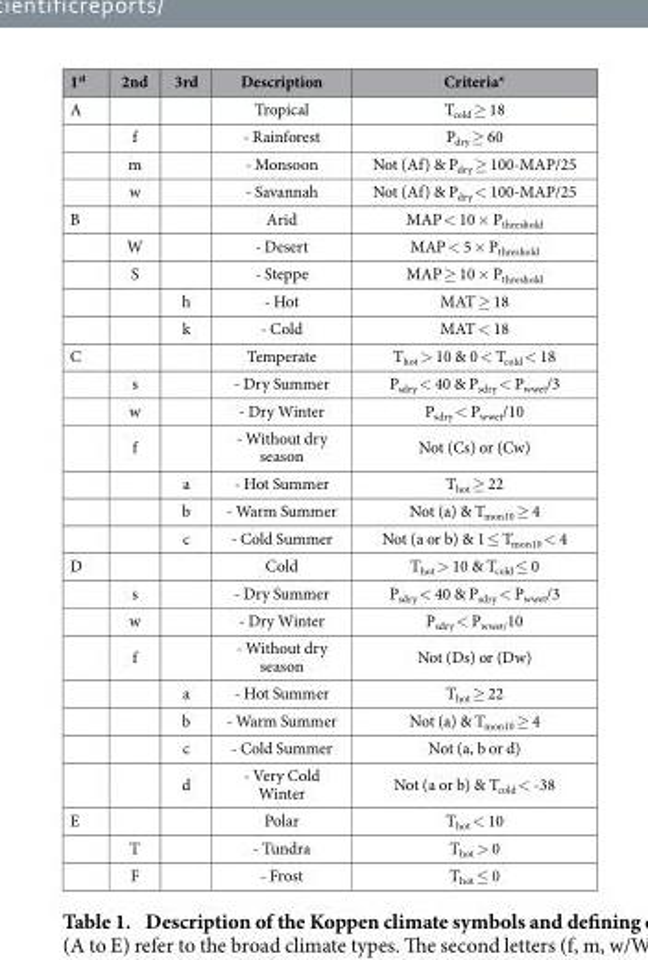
<table><thead><tr><td>1<sup>st</sup></td><td>2nd</td><td>3rd</td><td>Description</td><td>Criteria*</td></tr></thead><tbody><tr><td rowspan="4">A</td><td></td><td></td><td>Tropical</td><td>T<sub>cold</sub> ≥ 18</td></tr><tr><td>f</td><td></td><td>- Rainforest</td><td>P<sub>dry</sub> ≥ 60</td></tr><tr><td>m</td><td></td><td>- Monsoon</td><td>Not (Af) &amp; P<sub>dry</sub> ≥ 100-MAP/25</td></tr><tr><td>w</td><td></td><td>- Savannah</td><td>Not (Af) &amp; P<sub>dry</sub> &lt; 100-MAP/25</td></tr><tr><td rowspan="5">B</td><td></td><td></td><td>Arid</td><td>MAP &lt; 10 × P<sub>threshold</sub></td></tr><tr><td>W</td><td></td><td>- Desert</td><td>MAP &lt; 5 × P<sub>threshold</sub></td></tr><tr><td>S</td><td></td><td>- Steppe</td><td>MAP ≥ 10 × P<sub>threshold</sub></td></tr><tr><td></td><td>h</td><td>- Hot</td><td>MAT ≥ 18</td></tr><tr><td></td><td>k</td><td>- Cold</td><td>MAT &lt; 18</td></tr><tr><td rowspan="7">C</td><td></td><td></td><td>Temperate</td><td>T<sub>hot</sub> &gt; 10 &amp; 0 &lt; T<sub>cold</sub> &lt; 18</td></tr><tr><td>s</td><td></td><td>- Dry Summer</td><td>P<sub>sdry</sub> &lt; 40 &amp; P<sub>sdry</sub> &lt; P<sub>wwet</sub>/3</td></tr><tr><td>w</td><td></td><td>- Dry Winter</td><td>P<sub>sdry</sub> &lt; P<sub>wwet</sub>/10</td></tr><tr><td>f</td><td></td><td>- Without dry season</td><td>Not (Cs) or (Cw)</td></tr><tr><td></td><td>a</td><td>- Hot Summer</td><td>T<sub>hot</sub> ≥ 22</td></tr><tr><td></td><td>b</td><td>- Warm Summer</td><td>Not (a) &amp; T<sub>mon10</sub> ≥ 4</td></tr><tr><td></td><td>c</td><td>- Cold Summer</td><td>Not (a or b) &amp; 1 ≤ T<sub>mon10</sub> &lt; 4</td></tr><tr><td rowspan="8">D</td><td></td><td></td><td>Cold</td><td>T<sub>hot</sub> &gt; 10 &amp; T<sub>cold</sub> ≤ 0</td></tr><tr><td>s</td><td></td><td>- Dry Summer</td><td>P<sub>sdry</sub> &lt; 40 &amp; P<sub>sdry</sub> &lt; P<sub>wwet</sub>/3</td></tr><tr><td>w</td><td></td><td>- Dry Winter</td><td>P<sub>sdry</sub> &lt; P<sub>wwet/</sub>10</td></tr><tr><td>f</td><td></td><td>- Without dry season</td><td>Not (Ds) or (Dw)</td></tr><tr><td></td><td>a</td><td>- Hot Summer</td><td>T<sub>hot</sub> ≥ 22</td></tr><tr><td></td><td>b</td><td>- Warm Summer</td><td>Not (a) &amp; T<sub>mon10</sub> ≥ 4</td></tr><tr><td></td><td>c</td><td>- Cold Summer</td><td>Not (a, b or d)</td></tr><tr><td></td><td>d</td><td>- Very Cold Winter</td><td>Not (a or b) &amp; T<sub>cold</sub> &lt; -38</td></tr><tr><td rowspan="3">E</td><td></td><td></td><td>Polar</td><td>T<sub>hot</sub> &lt; 10</td></tr><tr><td>T</td><td></td><td>- Tundra</td><td>T<sub>hot</sub> &gt; 0</td></tr><tr><td>F</td><td></td><td>- Frost</td><td>T<sub>hot</sub> ≤ 0</td></tr></tbody></table>